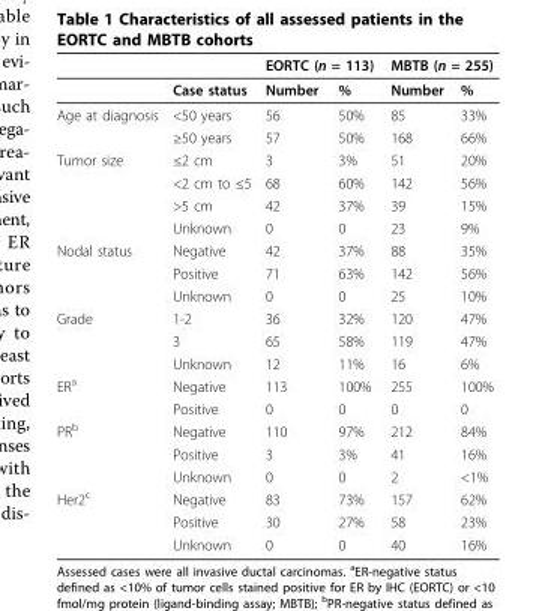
<table><thead><tr><td rowspan="2"></td><td rowspan="2">Case status</td><td colspan="2">EORTC (n = 113)</td><td colspan="2">MBTB (n = 255)</td></tr><tr><td>Number</td><td>%</td><td>Number</td><td>%</td></tr></thead><tbody><tr><td rowspan="2">Age at diagnosis</td><td>&lt;50 years</td><td>56</td><td>50%</td><td>85</td><td>33%</td></tr><tr><td>≥50 years</td><td>57</td><td>50%</td><td>168</td><td>66%</td></tr><tr><td rowspan="4">Tumor size</td><td>≤2 cm</td><td>3</td><td>3%</td><td>51</td><td>20%</td></tr><tr><td>&lt;2 cm to ≤5</td><td>68</td><td>60%</td><td>142</td><td>56%</td></tr><tr><td>&gt;5 cm</td><td>42</td><td>37%</td><td>39</td><td>15%</td></tr><tr><td>Unknown</td><td>0</td><td>0</td><td>23</td><td>9%</td></tr><tr><td rowspan="3">Nodal status</td><td>Negative</td><td>42</td><td>37%</td><td>88</td><td>35%</td></tr><tr><td>Positive</td><td>71</td><td>63%</td><td>142</td><td>56%</td></tr><tr><td>Unknown</td><td>0</td><td>0</td><td>25</td><td>10%</td></tr><tr><td rowspan="3">Grade</td><td>1-2</td><td>36</td><td>32%</td><td>120</td><td>47%</td></tr><tr><td>3</td><td>65</td><td>58%</td><td>119</td><td>47%</td></tr><tr><td>Unknown</td><td>12</td><td>11%</td><td>16</td><td>6%</td></tr><tr><td rowspan="2">ER<sup>a</sup></td><td>Negative</td><td>113</td><td>100%</td><td>255</td><td>100%</td></tr><tr><td>Positive</td><td>0</td><td>0</td><td>0</td><td>0</td></tr><tr><td rowspan="3">PR<sup>b</sup></td><td>Negative</td><td>110</td><td>97%</td><td>212</td><td>84%</td></tr><tr><td>Positive</td><td>3</td><td>3%</td><td>41</td><td>16%</td></tr><tr><td>Unknown</td><td>0</td><td>0</td><td>2</td><td>&lt;1%</td></tr><tr><td rowspan="3">Her2<sup>c</sup></td><td>Negative</td><td>83</td><td>73%</td><td>157</td><td>62%</td></tr><tr><td>Positive</td><td>30</td><td>27%</td><td>58</td><td>23%</td></tr><tr><td>Unknown</td><td>0</td><td>0</td><td>40</td><td>16%</td></tr></tbody></table>